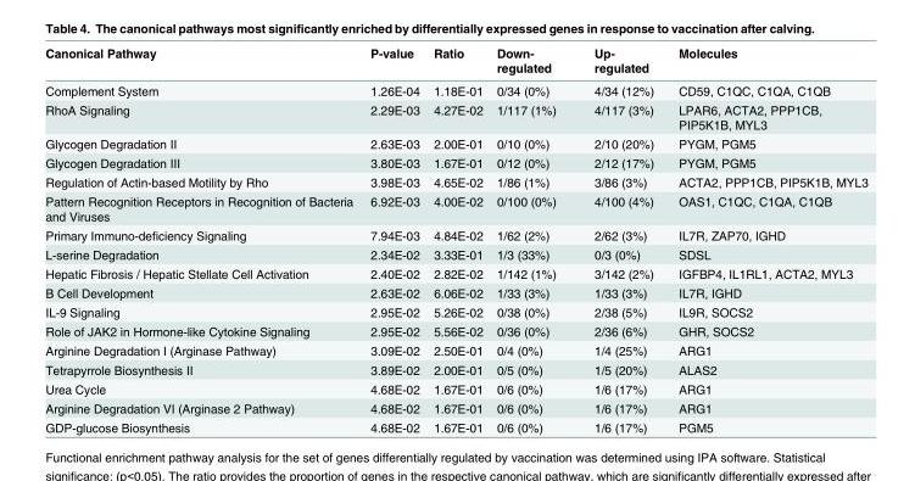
<table><thead><tr><td>Canonical Pathway</td><td>P-value</td><td>Ratio</td><td>Down- regulated</td><td>Up- regulated</td><td>Molecules</td></tr></thead><tbody><tr><td>Complement System</td><td>1.26E-04</td><td>1.18E-01</td><td>0/34 (0%)</td><td>4/34 (12%)</td><td>CD59, C1QC, C1QA, C1QB</td></tr><tr><td>RhoA Signaling</td><td>2.29E-03</td><td>4.27E-02</td><td>1/117 (1%)</td><td>4/117 (3%)</td><td>LPAR6, ACTA2, PPP1CB, PIP5K1B, MYL3</td></tr><tr><td>Glycogen Degradation II</td><td>2.63E-03</td><td>2.00E-01</td><td>0/10 (0%)</td><td>2/10 (20%)</td><td>PYGM, PGM5</td></tr><tr><td>Glycogen Degradation III</td><td>3.80E-03</td><td>1.67E-01</td><td>0/12 (0%)</td><td>2/12 (17%)</td><td>PYGM, PGM5</td></tr><tr><td>Regulation of Actin-based Motility by Rho</td><td>3.98E-03</td><td>4.65E-02</td><td>1/86 (1%)</td><td>3/86 (3%)</td><td>ACTA2, PPP1CB, PIP5K1B, MYL3</td></tr><tr><td>Pattern Recognition Receptors in Recognition of Bacteria and Viruses</td><td>6.92E-03</td><td>4.00E-02</td><td>0/100 (0%)</td><td>4/100 (4%)</td><td>OAS1, C1QC, C1QA, C1QB</td></tr><tr><td>Primary Immuno-deficiency Signaling</td><td>7.94E-03</td><td>4.84E-02</td><td>1/62 (2%)</td><td>2/62 (3%)</td><td>IL7R, ZAP70, IGHD</td></tr><tr><td>L-serine Degradation</td><td>2.34E-02</td><td>3.33E-01</td><td>1/3 (33%)</td><td>0/3 (0%)</td><td>SDSL</td></tr><tr><td>Hepatic Fibrosis / Hepatic Stellate Cell Activation</td><td>2.40E-02</td><td>2.82E-02</td><td>1/142 (1%)</td><td>3/142 (2%)</td><td>IGFBP4, IL1RL1, ACTA2, MYL3</td></tr><tr><td>B Cell Development</td><td>2.63E-02</td><td>6.06E-02</td><td>1/33 (3%)</td><td>1/33 (3%)</td><td>IL7R, IGHD</td></tr><tr><td>IL-9 Signaling</td><td>2.95E-02</td><td>5.26E-02</td><td>0/38 (0%)</td><td>2/38 (5%)</td><td>IL9R, SOCS2</td></tr><tr><td>Role of JAK2 in Hormone-like Cytokine Signaling</td><td>2.95E-02</td><td>5.56E-02</td><td>0/36 (0%)</td><td>2/36 (6%)</td><td>GHR, SOCS2</td></tr><tr><td>Arginine Degradation I (Arginase Pathway)</td><td>3.09E-02</td><td>2.50E-01</td><td>0/4 (0%)</td><td>1/4 (25%)</td><td>ARG1</td></tr><tr><td>Tetrapyrrole Biosynthesis II</td><td>3.89E-02</td><td>2.00E-01</td><td>0/5 (0%)</td><td>1/5 (20%)</td><td>ALAS2</td></tr><tr><td>Urea Cycle</td><td>4.68E-02</td><td>1.67E-01</td><td>0/6 (0%)</td><td>1/6 (17%)</td><td>ARG1</td></tr><tr><td>Arginine Degradation VI (Arginase 2 Pathway)</td><td>4.68E-02</td><td>1.67E-01</td><td>0/6 (0%)</td><td>1/6 (17%)</td><td>ARG1</td></tr><tr><td>GDP-glucose Biosynthesis</td><td>4.68E-02</td><td>1.67E-01</td><td>0/6 (0%)</td><td>1/6 (17%)</td><td>PGM5</td></tr></tbody></table>